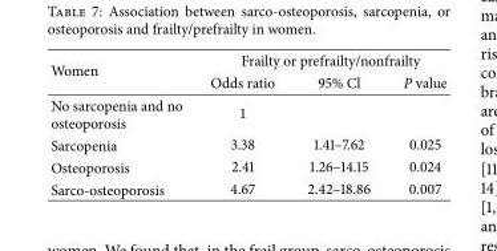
<table><thead><tr><td rowspan="2">Women</td><td colspan="3">Frailty or prefrailty/nonfrailty</td></tr><tr><td>Odds ratio</td><td>95% Cl</td><td>P value</td></tr></thead><tbody><tr><td>No sarcopenia and no osteoporosis</td><td>1</td><td></td><td></td></tr><tr><td>Sarcopenia</td><td>3.38</td><td>1.41–7.62</td><td>0.025</td></tr><tr><td>Osteoporosis</td><td>2.41</td><td>1.26–14.15</td><td>0.024</td></tr><tr><td>Sarco-osteoporosis</td><td>4.67</td><td>2.42–18.86</td><td>0.007</td></tr></tbody></table>